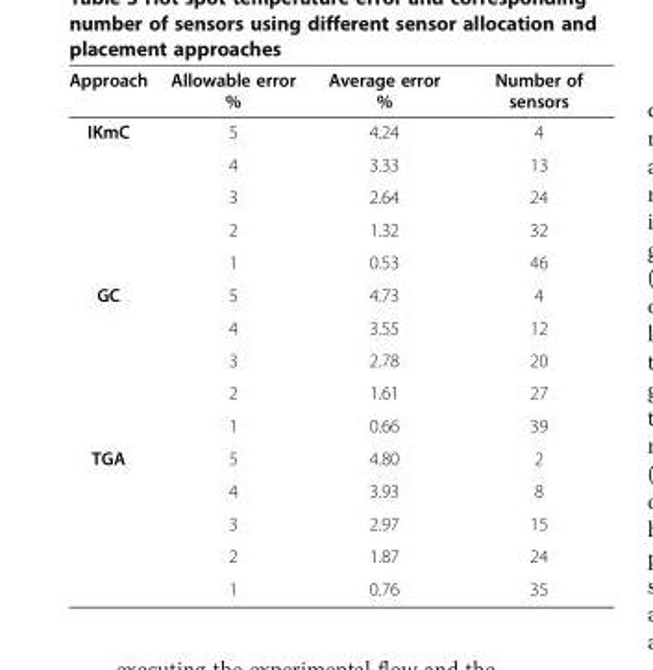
<table><thead><tr><td>Approach</td><td>Allowable error %</td><td>Average error %</td><td>Number of sensors</td></tr></thead><tbody><tr><td rowspan="5">IKmC</td><td>5</td><td>4.24</td><td>4</td></tr><tr><td>4</td><td>3.33</td><td>13</td></tr><tr><td>3</td><td>2.64</td><td>24</td></tr><tr><td>2</td><td>1.32</td><td>32</td></tr><tr><td>1</td><td>0.53</td><td>46</td></tr><tr><td rowspan="5">GC</td><td>5</td><td>4.73</td><td>4</td></tr><tr><td>4</td><td>3.55</td><td>12</td></tr><tr><td>3</td><td>2.78</td><td>20</td></tr><tr><td>2</td><td>1.61</td><td>27</td></tr><tr><td>1</td><td>0.66</td><td>39</td></tr><tr><td rowspan="5">TGA</td><td>5</td><td>4.80</td><td>2</td></tr><tr><td>4</td><td>3.93</td><td>8</td></tr><tr><td>3</td><td>2.97</td><td>15</td></tr><tr><td>2</td><td>1.87</td><td>24</td></tr><tr><td>1</td><td>0.76</td><td>35</td></tr></tbody></table>